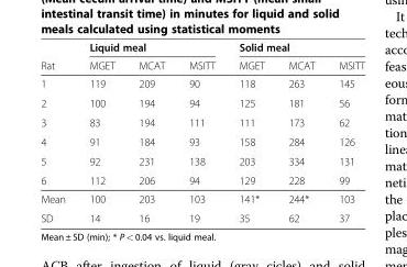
<table><thead><tr><td rowspan="2">Rat</td><td colspan="3">Liquid meal</td><td colspan="3">Solid meal</td></tr><tr><td>MGET</td><td>MCAT</td><td>MSITT</td><td>MGET</td><td>MCAT</td><td>MSITT</td></tr></thead><tbody><tr><td>1</td><td>119</td><td>209</td><td>90</td><td>118</td><td>263</td><td>145</td></tr><tr><td>2</td><td>100</td><td>194</td><td>94</td><td>125</td><td>181</td><td>56</td></tr><tr><td>3</td><td>83</td><td>194</td><td>111</td><td>111</td><td>173</td><td>62</td></tr><tr><td>4</td><td>91</td><td>184</td><td>93</td><td>158</td><td>284</td><td>126</td></tr><tr><td>5</td><td>92</td><td>231</td><td>138</td><td>203</td><td>334</td><td>131</td></tr><tr><td>6</td><td>112</td><td>206</td><td>94</td><td>129</td><td>228</td><td>99</td></tr><tr><td>Mean</td><td>100</td><td>203</td><td>103</td><td>141*</td><td>244*</td><td>103</td></tr><tr><td>SD</td><td>14</td><td>16</td><td>19</td><td>35</td><td>62</td><td>37</td></tr></tbody></table>